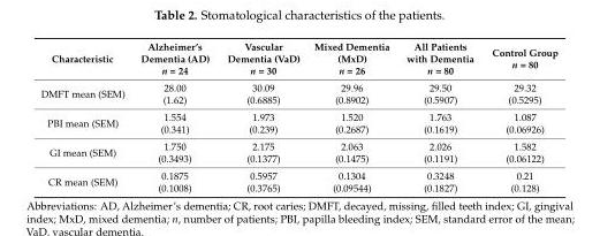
<table><thead><tr><td>Characteristic</td><td>Alzheimer’s Dementia (AD) n = 24</td><td>Vascular Dementia (VaD) n = 30</td><td>Mixed Dementia (MxD) n = 26</td><td>All Patients with Dementia n = 80</td><td>Control Group n = 80</td></tr></thead><tbody><tr><td rowspan="2">DMFT mean (SEM)</td><td>28.00</td><td>30.09</td><td>29.96</td><td>29.50</td><td>29.32</td></tr><tr><td>(1.62)</td><td>(0.6885)</td><td>(0.8902)</td><td>(0.5907)</td><td>(0.5295)</td></tr><tr><td rowspan="2">PBI mean (SEM)</td><td>1.554</td><td>1.973</td><td>1.520</td><td>1.763</td><td>1.087</td></tr><tr><td>(0.341)</td><td>(0.239)</td><td>(0.2687)</td><td>(0.1619)</td><td>(0.06926)</td></tr><tr><td rowspan="2">GI mean (SEM)</td><td>1.750</td><td>2.175</td><td>2.063</td><td>2.026</td><td>1.582</td></tr><tr><td>(0.3493)</td><td>(0.1377)</td><td>(0.1475)</td><td>(0.1191)</td><td>(0.06122)</td></tr><tr><td rowspan="2">CR mean (SEM)</td><td>0.1875</td><td>0.5957</td><td>0.1304</td><td>0.3248</td><td>0.21</td></tr><tr><td>(0.1008)</td><td>(0.3765)</td><td>(0.09544)</td><td>(0.1827)</td><td>(0.128)</td></tr></tbody></table>